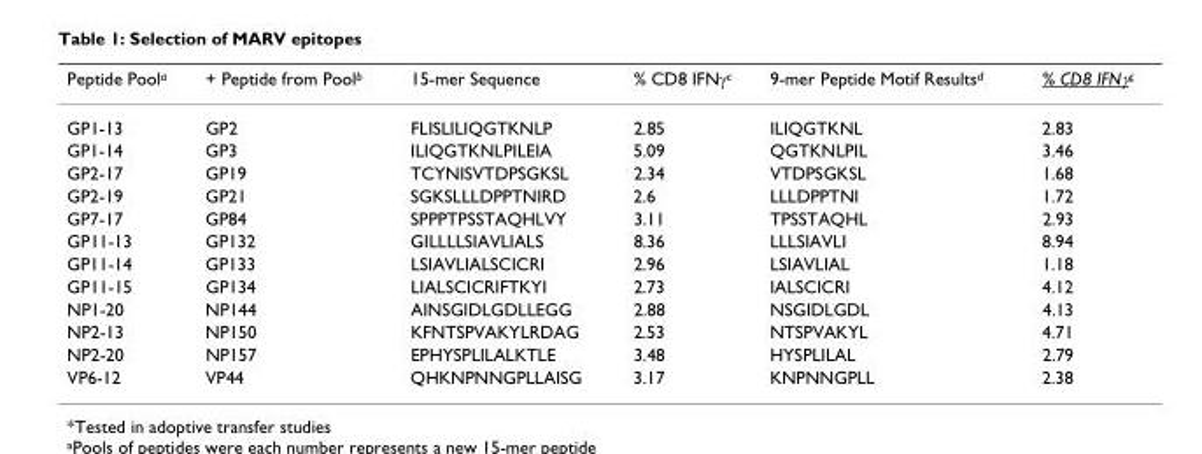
<table><thead><tr><td>Peptide Pool<sup>a</sup></td><td>+ Peptide from Pool<sup>b</sup></td><td>15-mer Sequence</td><td>% CD8 IFNγ<sup>c</sup></td><td>9-mer Peptide Motif Results<sup>d</sup></td><td>% CD8 IFNγ<sup>c</sup></td></tr></thead><tbody><tr><td>GP1-13</td><td>GP2</td><td>FLISLILIQGTKNLP</td><td>2.85</td><td>ILIQGTKNL</td><td>2.83</td></tr><tr><td>GP1-14</td><td>GP3</td><td>ILIQGTKNLPILEIA</td><td>5.09</td><td>QGTKNLPIL</td><td>3.46</td></tr><tr><td>GP2-17</td><td>GP19</td><td>TCYNISVTDPSGKSL</td><td>2.34</td><td>VTDPSGKSL</td><td>1.68</td></tr><tr><td>GP2-19</td><td>GP21</td><td>SGKSLLLDPPTNIRD</td><td>2.6</td><td>LLLDPPTNI</td><td>1.72</td></tr><tr><td>GP7-17</td><td>GP84</td><td>SPPPTPSSTAQHLVY</td><td>3.11</td><td>TPSSTAQHL</td><td>2.93</td></tr><tr><td>GP11-13</td><td>GP132</td><td>GILLLLSIAVLIALS</td><td>8.36</td><td>LLLSIAVLI</td><td>8.94</td></tr><tr><td>GP11-14</td><td>GP133</td><td>LSIAVLIALSCICRI</td><td>2.96</td><td>LSIAVLIAL</td><td>1.18</td></tr><tr><td>GP11-15</td><td>GP134</td><td>LIALSCICRIFTKYI</td><td>2.73</td><td>IALSCICRI</td><td>4.12</td></tr><tr><td>NP1-20</td><td>NP144</td><td>AINSGIDLGDLLEGG</td><td>2.88</td><td>NSGIDLGDL</td><td>4.13</td></tr><tr><td>NP2-13</td><td>NP150</td><td>KFNTSPVAKYLRDAG</td><td>2.53</td><td>NTSPVAKYL</td><td>4.71</td></tr><tr><td>NP2-20</td><td>NP157</td><td>EPHYSPLILALKTLE</td><td>3.48</td><td>HYSPLILAL</td><td>2.79</td></tr><tr><td>VP6-12</td><td>VP44</td><td>QHKNPNNGPLLAISG</td><td>3.17</td><td>KNPNNGPLL</td><td>2.38</td></tr></tbody></table>